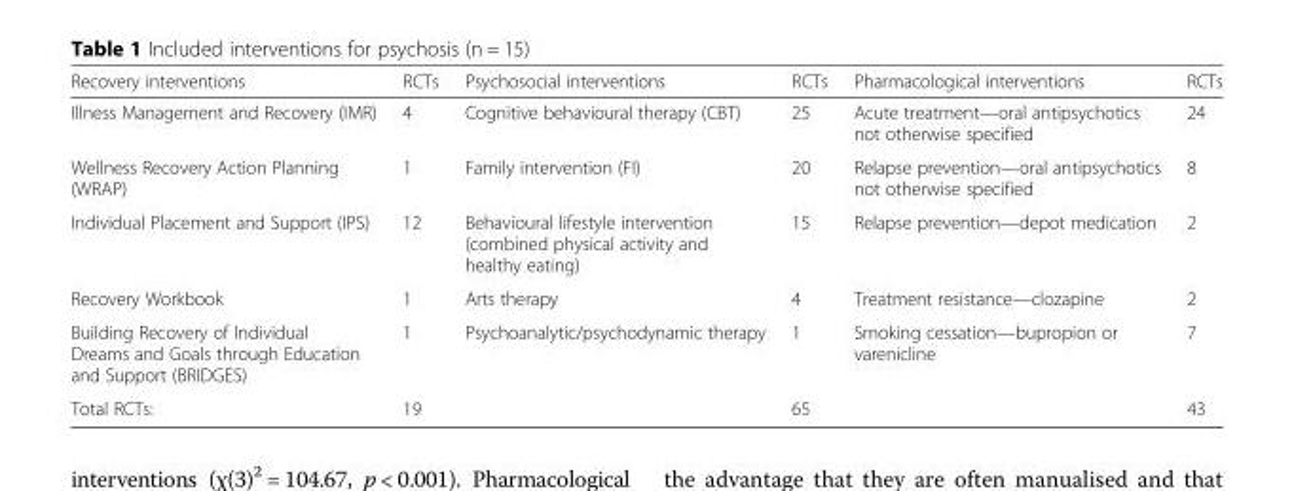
<table><thead><tr><td>Recovery interventions</td><td>RCTs</td><td>Psychosocial interventions</td><td>RCTs</td><td>Pharmacological interventions</td><td>RCTs</td></tr></thead><tbody><tr><td>Illness Management and Recovery (IMR)</td><td>4</td><td>Cognitive behavioural therapy (CBT)</td><td>25</td><td>Acute treatment—oral antipsychotics not otherwise specified</td><td>24</td></tr><tr><td>Wellness Recovery Action Planning (WRAP)</td><td>1</td><td>Family intervention (FI)</td><td>20</td><td>Relapse prevention—oral antipsychotics not otherwise specified</td><td>8</td></tr><tr><td>Individual Placement and Support (IPS)</td><td>12</td><td>Behavioural lifestyle intervention (combined physical activity and healthy eating)</td><td>15</td><td>Relapse prevention—depot medication</td><td>2</td></tr><tr><td>Recovery Workbook</td><td>1</td><td>Arts therapy</td><td>4</td><td>Treatment resistance—clozapine</td><td>2</td></tr><tr><td>Building Recovery of Individual Dreams and Goals through Education and Support (BRIDGES)</td><td>1</td><td>Psychoanalytic/psychodynamic therapy</td><td>1</td><td>Smoking cessation—bupropion or varenicline</td><td>7</td></tr><tr><td>Total RCTs:</td><td>19</td><td></td><td>65</td><td></td><td>43</td></tr></tbody></table>